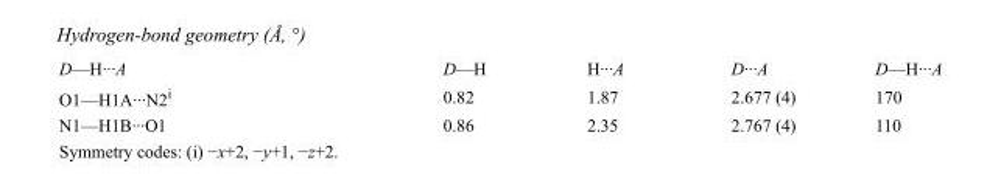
<table><tbody><tr><td>D—H···A</td><td>D—H</td><td>H···A</td><td>D···A</td><td>D—H···A</td></tr><tr><td>O1—H1A···N2<sup>i</sup></td><td>0.82</td><td>1.87</td><td>2.677 (4)</td><td>170</td></tr><tr><td>N1—H1B···O1</td><td>0.86</td><td>2.35</td><td>2.767 (4)</td><td>110</td></tr></tbody></table>